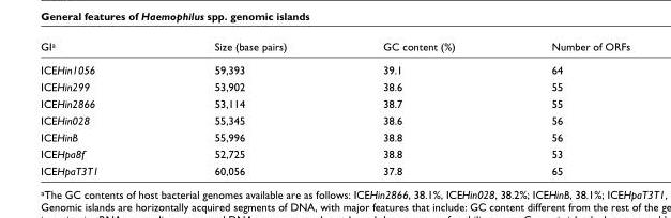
<table><thead><tr><td>GI<sup>a</sup></td><td>Size (base pairs)</td><td>GC content (%)</td><td>Number of ORFs</td></tr></thead><tbody><tr><td>ICEHin1056</td><td>59,393</td><td>39.1</td><td>64</td></tr><tr><td>ICEHin299</td><td>53,902</td><td>38.6</td><td>55</td></tr><tr><td>ICEHin2866</td><td>53,114</td><td>38.7</td><td>55</td></tr><tr><td>ICEHin028</td><td>55,345</td><td>38.6</td><td>56</td></tr><tr><td>ICEHinB</td><td>55,996</td><td>38.8</td><td>56</td></tr><tr><td>ICEHpa8f</td><td>52,725</td><td>38.8</td><td>53</td></tr><tr><td>ICEHpaT3T1</td><td>60,056</td><td>37.8</td><td>65</td></tr></tbody></table>